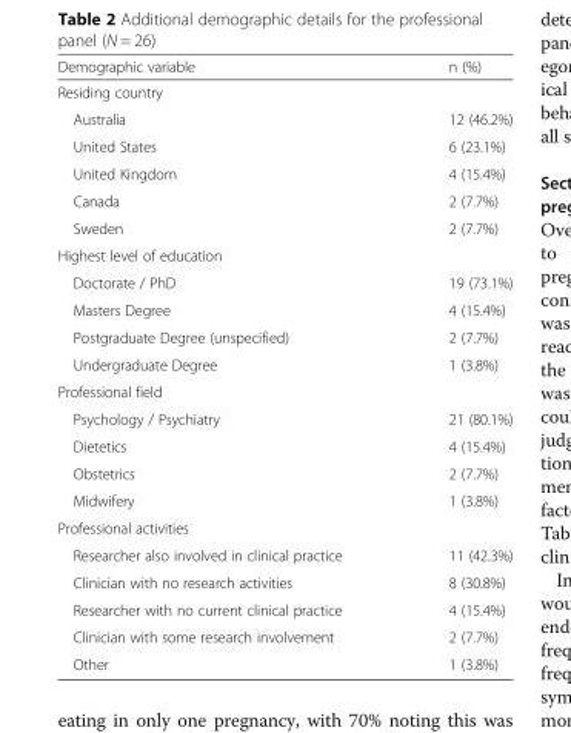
<table><thead><tr><td>Demographic variable</td><td>n (%)</td></tr></thead><tbody><tr><td colspan="2">Residing country</td></tr><tr><td>Australia</td><td>12 (46.2%)</td></tr><tr><td>United States</td><td>6 (23.1%)</td></tr><tr><td>United Kingdom</td><td>4 (15.4%)</td></tr><tr><td>Canada</td><td>2 (7.7%)</td></tr><tr><td>Sweden</td><td>2 (7.7%)</td></tr><tr><td colspan="2">Highest level of education</td></tr><tr><td>Doctorate / PhD</td><td>19 (73.1%)</td></tr><tr><td>Masters Degree</td><td>4 (15.4%)</td></tr><tr><td>Postgraduate Degree (unspecified)</td><td>2 (7.7%)</td></tr><tr><td>Undergraduate Degree</td><td>1 (3.8%)</td></tr><tr><td colspan="2">Professional field</td></tr><tr><td>Psychology / Psychiatry</td><td>21 (80.1%)</td></tr><tr><td>Dietetics</td><td>4 (15.4%)</td></tr><tr><td>Obstetrics</td><td>2 (7.7%)</td></tr><tr><td>Midwifery</td><td>1 (3.8%)</td></tr><tr><td colspan="2">Professional activities</td></tr><tr><td>Researcher also involved in clinical practice</td><td>11 (42.3%)</td></tr><tr><td>Clinician with no research activities</td><td>8 (30.8%)</td></tr><tr><td>Researcher with no current clinical practice</td><td>4 (15.4%)</td></tr><tr><td>Clinician with some research involvement</td><td>2 (7.7%)</td></tr><tr><td>Other</td><td>1 (3.8%)</td></tr></tbody></table>